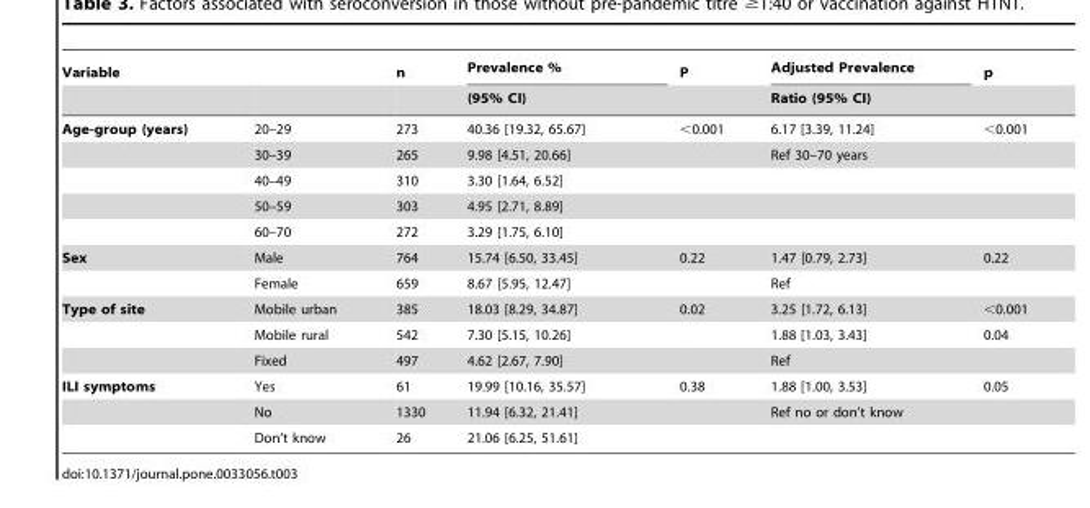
<table><thead><tr><td rowspan="2">Variable</td><td rowspan="2"></td><td rowspan="2">n</td><td rowspan="2">Prevalence % (95% CI)</td><td rowspan="2">P</td><td rowspan="2">Adjusted Prevalence Ratio (95% CI)</td><td rowspan="2">p</td></tr><tr></tr></thead><tbody><tr><td rowspan="5">Age-group (years)</td><td>20–29</td><td>273</td><td>40.36 [19.32, 65.67]</td><td>&lt;0.001</td><td>6.17 [3.39, 11.24]</td><td>&lt;0.001</td></tr><tr><td>30–39</td><td>265</td><td>9.98 [4.51, 20.66]</td><td></td><td>Ref 30–70 years</td><td></td></tr><tr><td>40–49</td><td>310</td><td>3.30 [1.64, 6.52]</td><td></td><td></td><td></td></tr><tr><td>50–59</td><td>303</td><td>4.95 [2.71, 8.89]</td><td></td><td></td><td></td></tr><tr><td>60–70</td><td>272</td><td>3.29 [1.75, 6.10]</td><td></td><td></td><td></td></tr><tr><td rowspan="2">Sex</td><td>Male</td><td>764</td><td>15.74 [6.50, 33.45]</td><td>0.22</td><td>1.47 [0.79, 2.73]</td><td>0.22</td></tr><tr><td>Female</td><td>659</td><td>8.67 [5.95, 12.47]</td><td></td><td>Ref</td><td></td></tr><tr><td rowspan="3">Type of site</td><td>Mobile urban</td><td>385</td><td>18.03 [8.29, 34.87]</td><td>0.02</td><td>3.25 [1.72, 6.13]</td><td>&lt;0.001</td></tr><tr><td>Mobile rural</td><td>542</td><td>7.30 [5.15, 10.26]</td><td></td><td>1.88 [1.03, 3.43]</td><td>0.04</td></tr><tr><td>Fixed</td><td>497</td><td>4.62 [2.67, 7.90]</td><td></td><td>Ref</td><td></td></tr><tr><td rowspan="3">ILI symptoms</td><td>Yes</td><td>61</td><td>19.99 [10.16, 35.57]</td><td>0.38</td><td>1.88 [1.00, 3.53]</td><td>0.05</td></tr><tr><td>No</td><td>1330</td><td>11.94 [6.32, 21.41]</td><td></td><td>Ref no or don’t know</td><td></td></tr><tr><td>Don’t know</td><td>26</td><td>21.06 [6.25, 51.61]</td><td></td><td></td><td></td></tr></tbody></table>